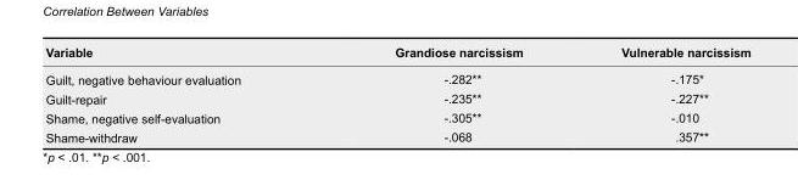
<table><thead><tr><td>Variable</td><td>Grandiose narcissism</td><td>Vulnerable narcissism</td></tr></thead><tbody><tr><td>Guilt, negative behaviour evaluation</td><td>-.282**</td><td>-.175*</td></tr><tr><td>Guilt-repair</td><td>-.235**</td><td>-.227**</td></tr><tr><td>Shame, negative self-evaluation</td><td>-.305**</td><td>-.010</td></tr><tr><td>Shame-withdraw</td><td>-.068</td><td>.357**</td></tr></tbody></table>